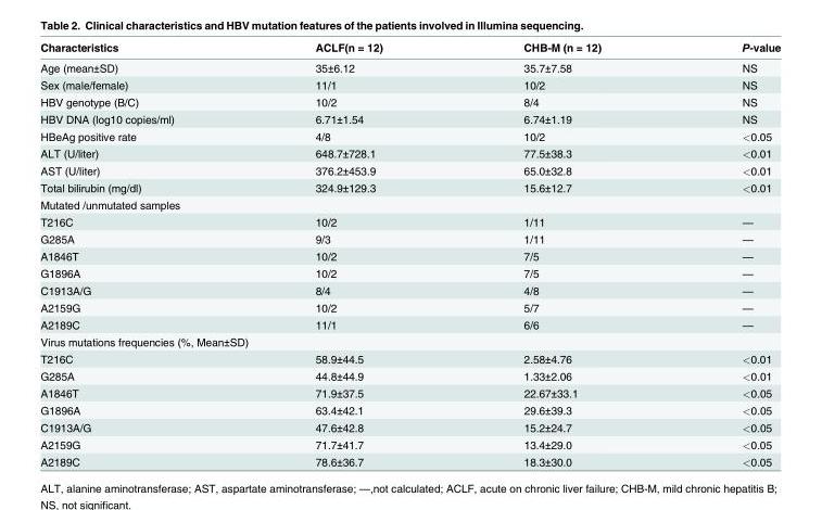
<table><thead><tr><td>Characteristics</td><td>ACLF(n = 12)</td><td>CHB-M (n = 12)</td><td>P-value</td></tr></thead><tbody><tr><td>Age (mean±SD)</td><td>35±6.12</td><td>35.7±7.58</td><td>NS</td></tr><tr><td>Sex (male/female)</td><td>11/1</td><td>10/2</td><td>NS</td></tr><tr><td>HBV genotype (B/C)</td><td>10/2</td><td>8/4</td><td>NS</td></tr><tr><td>HBV DNA (log10 copies/ml)</td><td>6.71±1.54</td><td>6.74±1.19</td><td>NS</td></tr><tr><td>HBeAg positive rate</td><td>4/8</td><td>10/2</td><td>&lt;0.05</td></tr><tr><td>ALT (U/liter)</td><td>648.7±728.1</td><td>77.5±38.3</td><td>&lt;0.01</td></tr><tr><td>AST (U/liter)</td><td>376.2±453.9</td><td>65.0±32.8</td><td>&lt;0.01</td></tr><tr><td>Total bilirubin (mg/dl)</td><td>324.9±129.3</td><td>15.6±12.7</td><td>&lt;0.01</td></tr><tr><td colspan="4">Mutated /unmutated samples</td></tr><tr><td>T216C</td><td>10/2</td><td>1/11</td><td>—</td></tr><tr><td>G285A</td><td>9/3</td><td>1/11</td><td>—</td></tr><tr><td>A1846T</td><td>10/2</td><td>7/5</td><td>—</td></tr><tr><td>G1896A</td><td>10/2</td><td>7/5</td><td>—</td></tr><tr><td>C1913A/G</td><td>8/4</td><td>4/8</td><td>—</td></tr><tr><td>A2159G</td><td>10/2</td><td>5/7</td><td>—</td></tr><tr><td>A2189C</td><td>11/1</td><td>6/6</td><td>—</td></tr><tr><td colspan="4">Virus mutations frequencies (%, Mean±SD)</td></tr><tr><td>T216C</td><td>58.9±44.5</td><td>2.58±4.76</td><td>&lt;0.01</td></tr><tr><td>G285A</td><td>44.8±44.9</td><td>1.33±2.06</td><td>&lt;0.01</td></tr><tr><td>A1846T</td><td>71.9±37.5</td><td>22.67±33.1</td><td>&lt;0.05</td></tr><tr><td>G1896A</td><td>63.4±42.1</td><td>29.6±39.3</td><td>&lt;0.05</td></tr><tr><td>C1913A/G</td><td>47.6±42.8</td><td>15.2±24.7</td><td>&lt;0.05</td></tr><tr><td>A2159G</td><td>71.7±41.7</td><td>13.4±29.0</td><td>&lt;0.05</td></tr><tr><td>A2189C</td><td>78.6±36.7</td><td>18.3±30.0</td><td>&lt;0.05</td></tr></tbody></table>